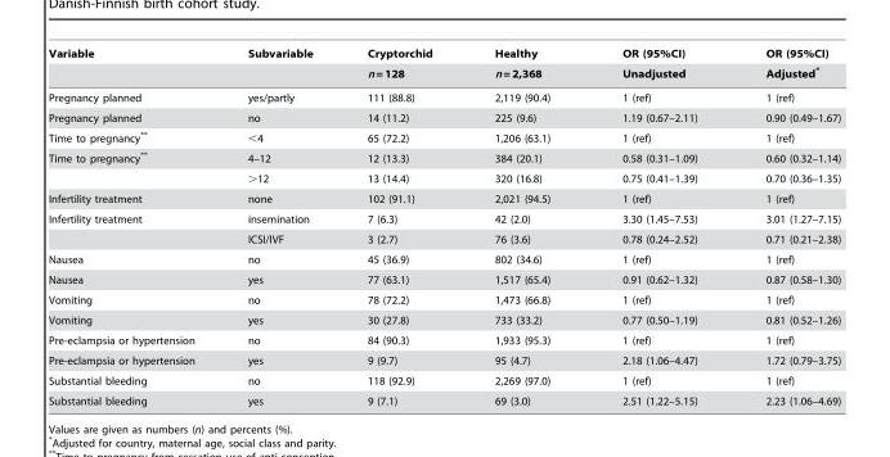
<table><thead><tr><td rowspan="2">Variable</td><td rowspan="2">Subvariable</td><td rowspan="2">Cryptorchid n = 128</td><td rowspan="2">Healthy n = 2,368</td><td rowspan="2">OR (95%CI) Unadjusted</td><td rowspan="2">OR (95%CI) Adjusted*</td></tr><tr></tr></thead><tbody><tr><td>Pregnancy planned</td><td>yes/partly</td><td>111 (88.8)</td><td>2,119 (90.4)</td><td>1 (ref)</td><td>1 (ref)</td></tr><tr><td>Pregnancy planned</td><td>no</td><td>14 (11.2)</td><td>225 (9.6)</td><td>1.19 (0.67–2.11)</td><td>0.90 (0.49–1.67)</td></tr><tr><td>Time to pregnancy**</td><td>&lt;4</td><td>65 (72.2)</td><td>1,206 (63.1)</td><td>1 (ref)</td><td>1 (ref)</td></tr><tr><td rowspan="2">Time to pregnancy**</td><td>4–12</td><td>12 (13.3)</td><td>384 (20.1)</td><td>0.58 (0.31–1.09)</td><td>0.60 (0.32–1.14)</td></tr><tr><td>&gt;12</td><td>13 (14.4)</td><td>320 (16.8)</td><td>0.75 (0.41–1.39)</td><td>0.70 (0.36–1.35)</td></tr><tr><td>Infertility treatment</td><td>none</td><td>102 (91.1)</td><td>2,021 (94.5)</td><td>1 (ref)</td><td>1 (ref)</td></tr><tr><td rowspan="2">Infertility treatment</td><td>insemination</td><td>7 (6.3)</td><td>42 (2.0)</td><td>3.30 (1.45–7.53)</td><td>3.01 (1.27–7.15)</td></tr><tr><td>ICSI/IVF</td><td>3 (2.7)</td><td>76 (3.6)</td><td>0.78 (0.24–2.52)</td><td>0.71 (0.21–2.38)</td></tr><tr><td>Nausea</td><td>no</td><td>45 (36.9)</td><td>802 (34.6)</td><td>1 (ref)</td><td>1 (ref)</td></tr><tr><td>Nausea</td><td>yes</td><td>77 (63.1)</td><td>1,517 (65.4)</td><td>0.91 (0.62–1.32)</td><td>0.87 (0.58–1.30)</td></tr><tr><td>Vomiting</td><td>no</td><td>78 (72.2)</td><td>1,473 (66.8)</td><td>1 (ref)</td><td>1 (ref)</td></tr><tr><td>Vomiting</td><td>yes</td><td>30 (27.8)</td><td>733 (33.2)</td><td>0.77 (0.50–1.19)</td><td>0.81 (0.52–1.26)</td></tr><tr><td>Pre-eclampsia or hypertension</td><td>no</td><td>84 (90.3)</td><td>1,933 (95.3)</td><td>1 (ref)</td><td>1 (ref)</td></tr><tr><td>Pre-eclampsia or hypertension</td><td>yes</td><td>9 (9.7)</td><td>95 (4.7)</td><td>2.18 (1.06–4.47)</td><td>1.72 (0.79–3.75)</td></tr><tr><td>Substantial bleeding</td><td>no</td><td>118 (92.9)</td><td>2,269 (97.0)</td><td>1 (ref)</td><td>1 (ref)</td></tr><tr><td>Substantial bleeding</td><td>yes</td><td>9 (7.1)</td><td>69 (3.0)</td><td>2.51 (1.22–5.15)</td><td>2.23 (1.06–4.69)</td></tr></tbody></table>